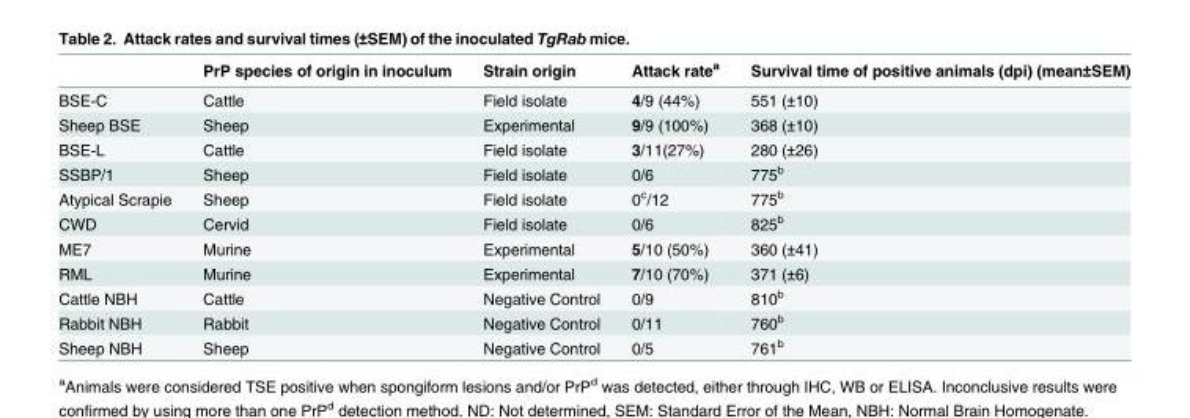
<table><thead><tr><td></td><td>PrP species of origin in inoculum</td><td>Strain origin</td><td>Attack rate<sup>a</sup></td><td>Survival time of positive animals (dpi) (mean±SEM)</td></tr></thead><tbody><tr><td>BSE-C</td><td>Cattle</td><td>Field isolate</td><td>4/9 (44%)</td><td>551 (±10)</td></tr><tr><td>Sheep BSE</td><td>Sheep</td><td>Experimental</td><td>9/9 (100%)</td><td>368 (±10)</td></tr><tr><td>BSE-L</td><td>Cattle</td><td>Field isolate</td><td>3/11(27%)</td><td>280 (±26)</td></tr><tr><td>SSBP/1</td><td>Sheep</td><td>Field isolate</td><td>0/6</td><td>775<sup>b</sup></td></tr><tr><td>Atypical Scrapie</td><td>Sheep</td><td>Field isolate</td><td>0<sup>c</sup>/12</td><td>775<sup>b</sup></td></tr><tr><td>CWD</td><td>Cervid</td><td>Field isolate</td><td>0/6</td><td>825<sup>b</sup></td></tr><tr><td>ME7</td><td>Murine</td><td>Experimental</td><td>5/10 (50%)</td><td>360 (±41)</td></tr><tr><td>RML</td><td>Murine</td><td>Experimental</td><td>7/10 (70%)</td><td>371 (±6)</td></tr><tr><td>Cattle NBH</td><td>Cattle</td><td>Negative Control</td><td>0/9</td><td>810<sup>b</sup></td></tr><tr><td>Rabbit NBH</td><td>Rabbit</td><td>Negative Control</td><td>0/11</td><td>760<sup>b</sup></td></tr><tr><td>Sheep NBH</td><td>Sheep</td><td>Negative Control</td><td>0/5</td><td>761<sup>b</sup></td></tr></tbody></table>